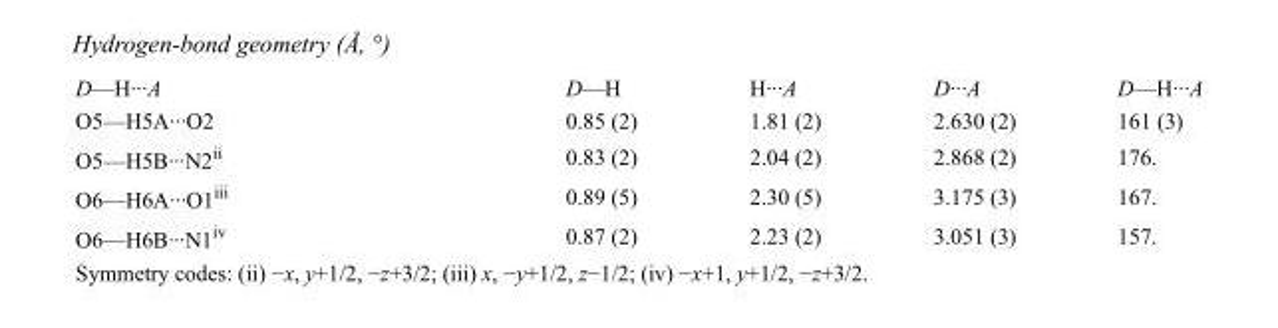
<table><tbody><tr><td>D—H···A</td><td>D—H</td><td>H···A</td><td>D···A</td><td>D—H···A</td></tr><tr><td>O5—H5A···O2</td><td>0.85 (2)</td><td>1.81 (2)</td><td>2.630 (2)</td><td>161 (3)</td></tr><tr><td>O5—H5B···N2<sup>ii</sup></td><td>0.83 (2)</td><td>2.04 (2)</td><td>2.868 (2)</td><td>176.</td></tr><tr><td>O6—H6A···O1<sup>iii</sup></td><td>0.89 (5)</td><td>2.30 (5)</td><td>3.175 (3)</td><td>167.</td></tr><tr><td>O6—H6B···N1<sup>iv</sup></td><td>0.87 (2)</td><td>2.23 (2)</td><td>3.051 (3)</td><td>157.</td></tr></tbody></table>